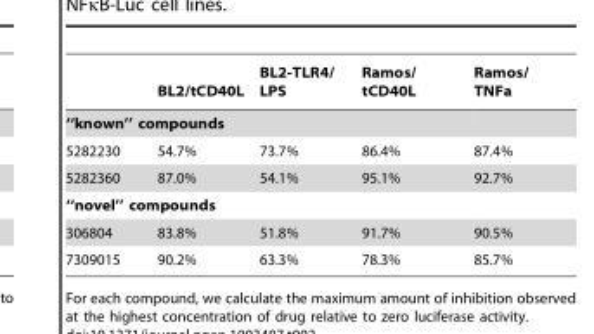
<table><thead><tr><td></td><td>BL2/tCD40L</td><td>BL2-TLR4/ LPS</td><td>Ramos/ tCD40L</td><td>Ramos/ TNFa</td></tr></thead><tbody><tr><td colspan="5">‘‘known’’ compounds</td></tr><tr><td>5282230</td><td>54.7%</td><td>73.7%</td><td>86.4%</td><td>87.4%</td></tr><tr><td>5282360</td><td>87.0%</td><td>54.1%</td><td>95.1%</td><td>92.7%</td></tr><tr><td colspan="5">‘‘novel’’ compounds</td></tr><tr><td>306804</td><td>83.8%</td><td>51.8%</td><td>91.7%</td><td>90.5%</td></tr><tr><td>7309015</td><td>90.2%</td><td>63.3%</td><td>78.3%</td><td>85.7%</td></tr></tbody></table>